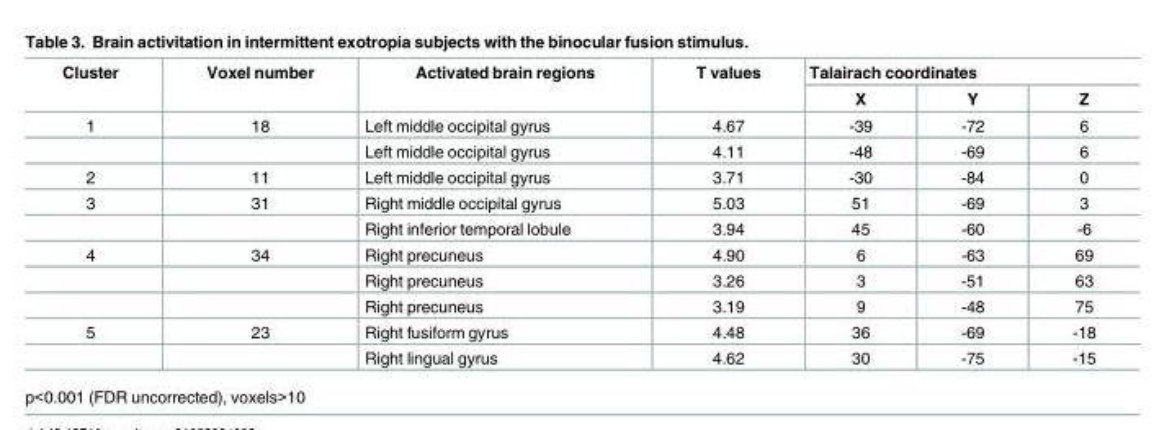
<table><thead><tr><td rowspan="2">Cluster</td><td rowspan="2">Voxel number</td><td rowspan="2">Activated brain regions</td><td rowspan="2">T values</td><td colspan="3">Talairach coordinates</td></tr><tr><td>X</td><td>Y</td><td>Z</td></tr></thead><tbody><tr><td rowspan="2">1</td><td>18</td><td>Left middle occipital gyrus</td><td>4.67</td><td>-39</td><td>-72</td><td>6</td></tr><tr><td></td><td>Left middle occipital gyrus</td><td>4.11</td><td>-48</td><td>-69</td><td>6</td></tr><tr><td>2</td><td>11</td><td>Left middle occipital gyrus</td><td>3.71</td><td>-30</td><td>-84</td><td>0</td></tr><tr><td rowspan="2">3</td><td>31</td><td>Right middle occipital gyrus</td><td>5.03</td><td>51</td><td>-69</td><td>3</td></tr><tr><td></td><td>Right inferior temporal lobule</td><td>3.94</td><td>45</td><td>-60</td><td>-6</td></tr><tr><td rowspan="3">4</td><td>34</td><td>Right precuneus</td><td>4.90</td><td>6</td><td>-63</td><td>69</td></tr><tr><td></td><td>Right precuneus</td><td>3.26</td><td>3</td><td>-51</td><td>63</td></tr><tr><td></td><td>Right precuneus</td><td>3.19</td><td>9</td><td>-48</td><td>75</td></tr><tr><td rowspan="2">5</td><td>23</td><td>Right fusiform gyrus</td><td>4.48</td><td>36</td><td>-69</td><td>-18</td></tr><tr><td></td><td>Right lingual gyrus</td><td>4.62</td><td>30</td><td>-75</td><td>-15</td></tr></tbody></table>